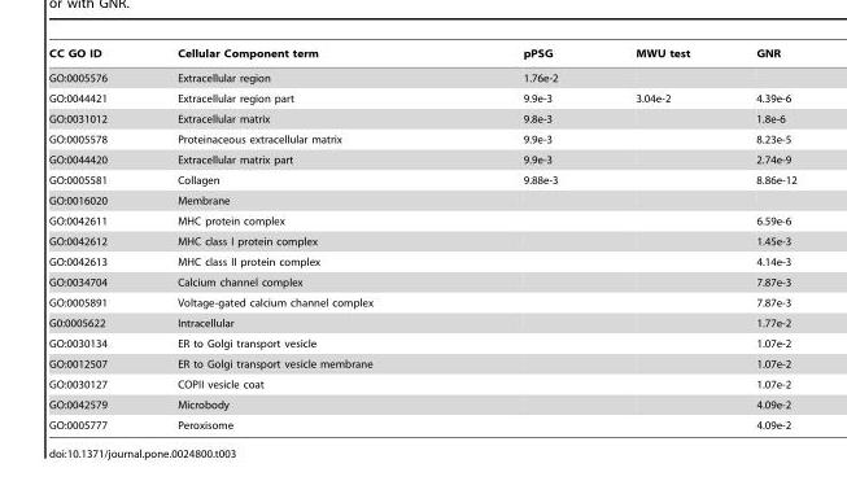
<table><thead><tr><td>CC GO ID</td><td>Cellular Component term</td><td>pPSG</td><td>MWU test</td><td>GNR</td></tr></thead><tbody><tr><td>GO:0005576</td><td>Extracellular region</td><td>1.76e-2</td><td></td><td></td></tr><tr><td>GO:0044421</td><td>Extracellular region part</td><td>9.9e-3</td><td>3.04e-2</td><td>4.39e-6</td></tr><tr><td>GO:0031012</td><td>Extracellular matrix</td><td>9.8e-3</td><td></td><td>1.8e-6</td></tr><tr><td>GO:0005578</td><td>Proteinaceous extracellular matrix</td><td>9.9e-3</td><td></td><td>8.23e-5</td></tr><tr><td>GO:0044420</td><td>Extracellular matrix part</td><td>9.9e-3</td><td></td><td>2.74e-9</td></tr><tr><td>GO:0005581</td><td>Collagen</td><td>9.88e-3</td><td></td><td>8.86e-12</td></tr><tr><td>GO:0016020</td><td>Membrane</td><td></td><td></td><td></td></tr><tr><td>GO:0042611</td><td>MHC protein complex</td><td></td><td></td><td>6.59e-6</td></tr><tr><td>GO:0042612</td><td>MHC class I protein complex</td><td></td><td></td><td>1.45e-3</td></tr><tr><td>GO:0042613</td><td>MHC class II protein complex</td><td></td><td></td><td>4.14e-3</td></tr><tr><td>GO:0034704</td><td>Calcium channel complex</td><td></td><td></td><td>7.87e-3</td></tr><tr><td>GO:0005891</td><td>Voltage-gated calcium channel complex</td><td></td><td></td><td>7.87e-3</td></tr><tr><td>G0:0005622</td><td>Intracellular</td><td></td><td></td><td>1.77e-2</td></tr><tr><td>GO:0030134</td><td>ER to Golgi transport vesicle</td><td></td><td></td><td>1.07e-2</td></tr><tr><td>GO:0012507</td><td>ER to Golgi transport vesicle membrane</td><td></td><td></td><td>1.07e-2</td></tr><tr><td>GO:0030127</td><td>COPII vesicle coat</td><td></td><td></td><td>1.07e-2</td></tr><tr><td>GO:0042579</td><td>Microbody</td><td></td><td></td><td>4.09e-2</td></tr><tr><td>GO:0005777</td><td>Peroxisome</td><td></td><td></td><td>4.09e-2</td></tr></tbody></table>